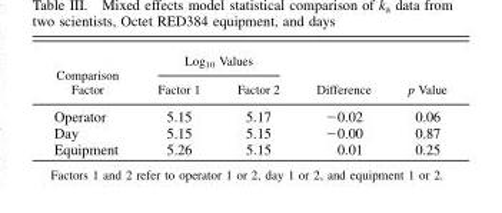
<table><thead><tr><td rowspan="2">Comparison Factor</td><td colspan="2">Log<sub>10</sub> Values</td><td rowspan="2">Difference</td><td rowspan="2">p Value</td></tr><tr><td>Factor 1</td><td>Factor 2</td></tr></thead><tbody><tr><td>Operator</td><td>5.15</td><td>5.17</td><td>−0.02</td><td>0.06</td></tr><tr><td>Day</td><td>5.15</td><td>5.15</td><td>−0.00</td><td>0.87</td></tr><tr><td>Equipment</td><td>5.26</td><td>5.15</td><td>0.01</td><td>0.25</td></tr></tbody></table>